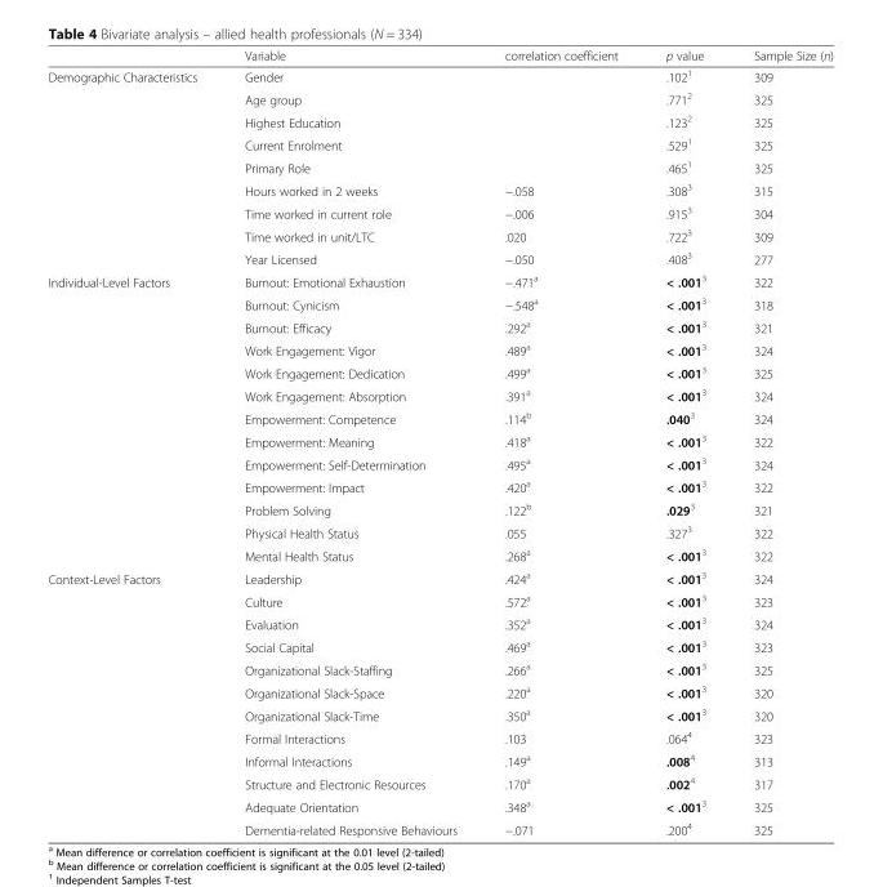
<table><thead><tr><td></td><td>Variable</td><td>correlation coefficient</td><td>p value</td><td>Sample Size (n)</td></tr></thead><tbody><tr><td rowspan="9">Demographic Characteristics</td><td>Gender</td><td></td><td>.102<sup>1</sup></td><td>309</td></tr><tr><td>Age group</td><td></td><td>.771<sup>2</sup></td><td>325</td></tr><tr><td>Highest Education</td><td></td><td>.123<sup>2</sup></td><td>325</td></tr><tr><td>Current Enrolment</td><td></td><td>.529<sup>1</sup></td><td>325</td></tr><tr><td>Primary Role</td><td></td><td>.465<sup>1</sup></td><td>325</td></tr><tr><td>Hours worked in 2 weeks</td><td>−.058</td><td>.308<sup>3</sup></td><td>315</td></tr><tr><td>Time worked in current role</td><td>−.006</td><td>.915<sup>3</sup></td><td>304</td></tr><tr><td>Time worked in unit/LTC</td><td>.020</td><td>.722<sup>3</sup></td><td>309</td></tr><tr><td>Year Licensed</td><td>−.050</td><td>.408<sup>3</sup></td><td>277</td></tr><tr><td rowspan="13">Individual-Level Factors</td><td>Burnout: Emotional Exhaustion</td><td>−.471<sup>a</sup></td><td>&lt; .001<sup>3</sup></td><td>322</td></tr><tr><td>Burnout: Cynicism</td><td>−.548<sup>a</sup></td><td>&lt; .001<sup>3</sup></td><td>318</td></tr><tr><td>Burnout: Efficacy</td><td>.292<sup>a</sup></td><td>&lt; .001<sup>3</sup></td><td>321</td></tr><tr><td>Work Engagement: Vigor</td><td>.489<sup>a</sup></td><td>&lt; .001<sup>3</sup></td><td>324</td></tr><tr><td>Work Engagement: Dedication</td><td>.499<sup>a</sup></td><td>&lt; .001<sup>3</sup></td><td>325</td></tr><tr><td>Work Engagement: Absorption</td><td>.391<sup>a</sup></td><td>&lt; .001<sup>3</sup></td><td>324</td></tr><tr><td>Empowerment: Competence</td><td>.114<sup>b</sup></td><td>.040<sup>3</sup></td><td>324</td></tr><tr><td>Empowerment: Meaning</td><td>.418<sup>a</sup></td><td>&lt; .001<sup>3</sup></td><td>322</td></tr><tr><td>Empowerment: Self-Determination</td><td>.495<sup>a</sup></td><td>&lt; .001<sup>3</sup></td><td>324</td></tr><tr><td>Empowerment: Impact</td><td>.420<sup>a</sup></td><td>&lt; .001<sup>3</sup></td><td>322</td></tr><tr><td>Problem Solving</td><td>.122<sup>b</sup></td><td>.029<sup>3</sup></td><td>321</td></tr><tr><td>Physical Health Status</td><td>.055</td><td>.327<sup>3</sup></td><td>322</td></tr><tr><td>Mental Health Status</td><td>.268<sup>a</sup></td><td>&lt; .001<sup>3</sup></td><td>322</td></tr><tr><td rowspan="12">Context-Level Factors</td><td>Leadership</td><td>.424<sup>a</sup></td><td>&lt; .001<sup>3</sup></td><td>324</td></tr><tr><td>Culture</td><td>.572<sup>a</sup></td><td>&lt; .001<sup>3</sup></td><td>323</td></tr><tr><td>Evaluation</td><td>.352<sup>a</sup></td><td>&lt; .001<sup>3</sup></td><td>324</td></tr><tr><td>Social Capital</td><td>.469<sup>a</sup></td><td>&lt; .001<sup>3</sup></td><td>323</td></tr><tr><td>Organizational Slack-Staffing</td><td>.266<sup>a</sup></td><td>&lt; .001<sup>3</sup></td><td>325</td></tr><tr><td>Organizational Slack-Space</td><td>.220<sup>a</sup></td><td>&lt; .001<sup>3</sup></td><td>320</td></tr><tr><td>Organizational Slack-Time</td><td>.350<sup>a</sup></td><td>&lt; .001<sup>3</sup></td><td>320</td></tr><tr><td>Formal Interactions</td><td>.103</td><td>.064<sup>4</sup></td><td>323</td></tr><tr><td>Informal Interactions</td><td>.149<sup>a</sup></td><td>.008<sup>4</sup></td><td>313</td></tr><tr><td>Structure and Electronic Resources</td><td>.170<sup>a</sup></td><td>.002<sup>4</sup></td><td>317</td></tr><tr><td>Adequate Orientation</td><td>.348<sup>a</sup></td><td>&lt; .001<sup>3</sup></td><td>325</td></tr><tr><td>Dementia-related Responsive Behaviours</td><td>−.071</td><td>.200<sup>4</sup></td><td>325</td></tr></tbody></table>